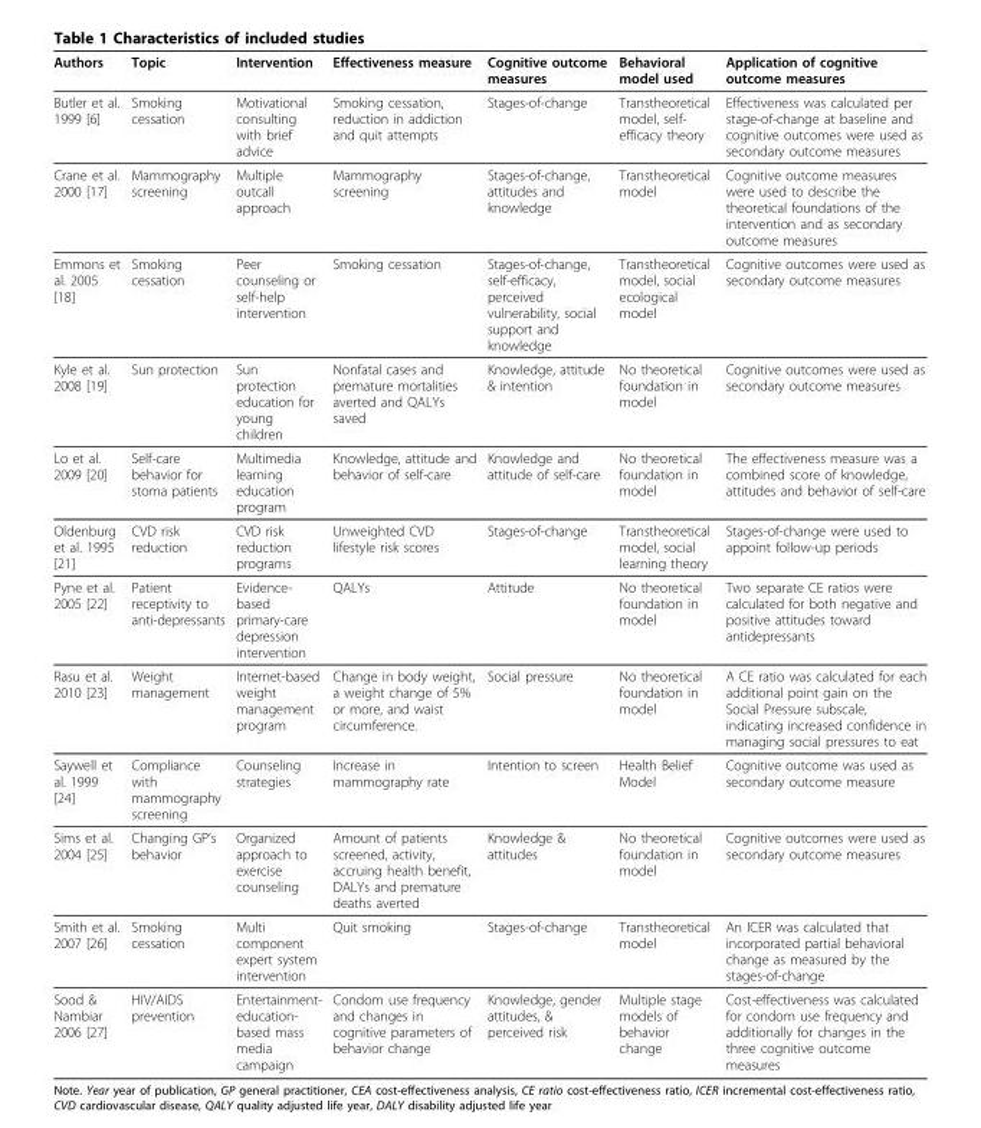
<table><thead><tr><td>Authors</td><td>Topic</td><td>Intervention</td><td>Effectiveness measure</td><td>Cognitive outcome measures</td><td>Behavioral model used</td><td>Application of cognitive outcome measures</td></tr></thead><tbody><tr><td>Butler et al. 1999 [6]</td><td>Smoking cessation</td><td>Motivational consulting with brief advice</td><td>Smoking cessation, reduction in addiction and quit attempts</td><td>Stages-of-change</td><td>Transtheoretical model, self- efficacy theory</td><td>Effectiveness was calculated per stage-of-change at baseline and cognitive outcomes were used as secondary outcome measures</td></tr><tr><td>Crane et al. 2000 [17]</td><td>Mammography screening</td><td>Multiple outcall approach</td><td>Mammography screening</td><td>Stages-of-change, attitudes and knowledge</td><td>Transtheoretical model</td><td>Cognitive outcome measures were used to describe the theoretical foundations of the intervention and as secondary outcome measures</td></tr><tr><td>Emmons et al. 2005 [18]</td><td>Smoking cessation</td><td>Peer counseling or self-help intervention</td><td>Smoking cessation</td><td>Stages-of-change, self-efficacy, perceived vulnerability, social support and knowledge</td><td>Transtheoretical model, social ecological model</td><td>Cognitive outcomes were used as secondary outcome measures</td></tr><tr><td>Kyle et al. 2008 [19]</td><td>Sun protection</td><td>Sun protection education for young children</td><td>Nonfatal cases and premature mortalities averted and QALYs saved</td><td>Knowledge, attitude &amp; intention</td><td>No theoretical foundation in model</td><td>Cognitive outcomes were used as secondary outcome measures</td></tr><tr><td>Lo et al. 2009 [20]</td><td>Self-care behavior for stoma patients</td><td>Multimedia learning education program</td><td>Knowledge, attitude and behavior of self-care</td><td>Knowledge and attitude of self-care</td><td>No theoretical foundation in model</td><td>The effectiveness measure was a combined score of knowledge, attitudes and behavior of self-care</td></tr><tr><td>Oldenburg et al. 1995 [21]</td><td>CVD risk reduction</td><td>CVD risk reduction programs</td><td>Unweighted CVD lifestyle risk scores</td><td>Stages-of-change</td><td>Transtheoretical model, social learning theory</td><td>Stages-of-change were used to appoint follow-up periods</td></tr><tr><td>Pyne et al. 2005 [22]</td><td>Patient receptivity to anti-depressants</td><td>Evidence- based primary-care depression intervention</td><td>QALYs</td><td>Attitude</td><td>No theoretical foundation in model</td><td>Two separate CE ratios were calculated for both negative and positive attitudes toward antidepressants</td></tr><tr><td>Rasu et al. 2010 [23]</td><td>Weight management</td><td>Internet-based weight management program</td><td>Change in body weight, a weight change of 5% or more, and waist circumference.</td><td>Social pressure</td><td>No theoretical foundation in model</td><td>A CE ratio was calculated for each additional point gain on the Social Pressure subscale, indicating increased confidence in managing social pressures to eat</td></tr><tr><td>Saywell et al. 1999 [24]</td><td>Compliance with mammography screening</td><td>Counseling strategies</td><td>Increase in mammography rate</td><td>Intention to screen</td><td>Health Belief Model</td><td>Cognitive outcome was used as secondary outcome measure</td></tr><tr><td>Sims et al. 2004 [25]</td><td>Changing GP’s behavior</td><td>Organized approach to exercise counseling</td><td>Amount of patients screened, activity, accruing health benefit, DALYs and premature deaths averted</td><td>Knowledge &amp; attitudes</td><td>No theoretical foundation in model</td><td>Cognitive outcomes were used as secondary outcome measures</td></tr><tr><td>Smith et al. 2007 [26]</td><td>Smoking cessation</td><td>Multi component expert system intervention</td><td>Quit smoking</td><td>Stages-of-change</td><td>Transtheoretical model</td><td>An ICER was calculated that incorporated partial behavioral change as measured by the stages-of-change</td></tr><tr><td>Sood &amp; Nambiar 2006 [27]</td><td>HIV/AIDS prevention</td><td>Entertainment- education- based mass media campaign</td><td>Condom use frequency and changes in cognitive parameters of behavior change</td><td>Knowledge, gender attitudes, &amp; perceived risk</td><td>Multiple stage models of behavior change</td><td>Cost-effectiveness was calculated for condom use frequency and additionally for changes in the three cognitive outcome measures</td></tr></tbody></table>